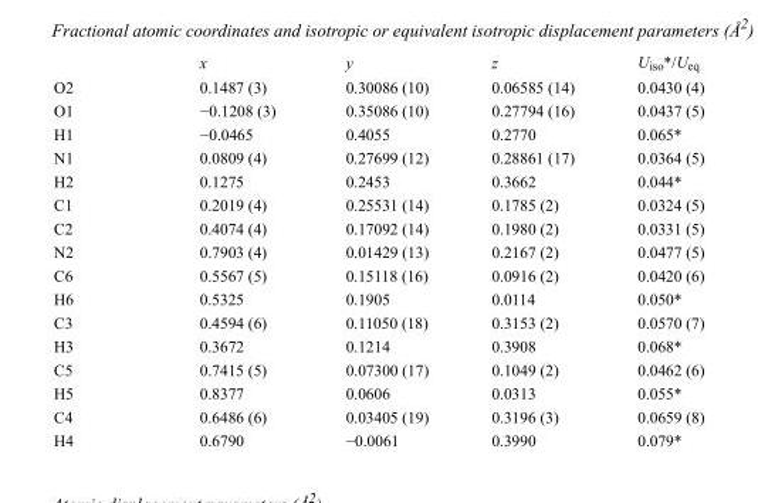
<table><thead><tr><td></td><td>x</td><td>y</td><td>z</td><td>U<sub>iso</sub>*/U<sub>eq</sub></td></tr></thead><tbody><tr><td>O2</td><td>0.1487 (3)</td><td>0.30086 (10)</td><td>0.06585 (14)</td><td>0.0430 (4)</td></tr><tr><td>O1</td><td>−0.1208 (3)</td><td>0.35086 (10)</td><td>0.27794 (16)</td><td>0.0437 (5)</td></tr><tr><td>H1</td><td>−0.0465</td><td>0.4055</td><td>0.2770</td><td>0.065*</td></tr><tr><td>N1</td><td>0.0809 (4)</td><td>0.27699 (12)</td><td>0.28861 (17)</td><td>0.0364 (5)</td></tr><tr><td>H2</td><td>0.1275</td><td>0.2453</td><td>0.3662</td><td>0.044*</td></tr><tr><td>C1</td><td>0.2019 (4)</td><td>0.25531 (14)</td><td>0.1785 (2)</td><td>0.0324 (5)</td></tr><tr><td>C2</td><td>0.4074 (4)</td><td>0.17092 (14)</td><td>0.1980 (2)</td><td>0.0331 (5)</td></tr><tr><td>N2</td><td>0.7903 (4)</td><td>0.01429 (13)</td><td>0.2167 (2)</td><td>0.0477 (5)</td></tr><tr><td>C6</td><td>0.5567 (5)</td><td>0.15118 (16)</td><td>0.0916 (2)</td><td>0.0420 (6)</td></tr><tr><td>H6</td><td>0.5325</td><td>0.1905</td><td>0.0114</td><td>0.050*</td></tr><tr><td>C3</td><td>0.4594 (6)</td><td>0.11050 (18)</td><td>0.3153 (2)</td><td>0.0570 (7)</td></tr><tr><td>H3</td><td>0.3672</td><td>0.1214</td><td>0.3908</td><td>0.068*</td></tr><tr><td>C5</td><td>0.7415 (5)</td><td>0.07300 (17)</td><td>0.1049 (2)</td><td>0.0462 (6)</td></tr><tr><td>H5</td><td>0.8377</td><td>0.0606</td><td>0.0313</td><td>0.055*</td></tr><tr><td>C4</td><td>0.6486 (6)</td><td>0.03405 (19)</td><td>0.3196 (3)</td><td>0.0659 (8)</td></tr><tr><td>H4</td><td>0.6790</td><td>−0.0061</td><td>0.3990</td><td>0.079*</td></tr></tbody></table>